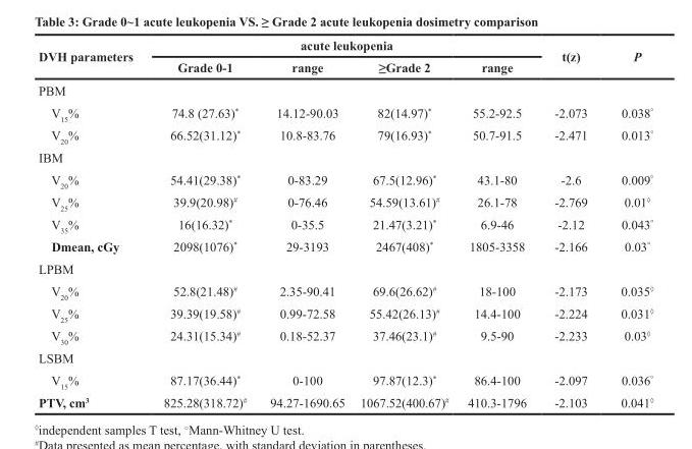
<table><thead><tr><td rowspan="2">DVH parameters</td><td colspan="4">acute leukopenia</td><td rowspan="2">t(z)</td><td rowspan="2">P</td></tr><tr><td>Grade 0-1</td><td>range</td><td>≥Grade 2</td><td>range</td></tr></thead><tbody><tr><td colspan="7">PBM</td></tr><tr><td>V<sub>15</sub>%</td><td>74.8 (27.63)*</td><td>14.12-90.03</td><td>82(14.97)*</td><td>55.2-92.5</td><td>-2.073</td><td>0.038<sup>°</sup></td></tr><tr><td>V<sub>20</sub>%</td><td>66.52(31.12)*</td><td>10.8-83.76</td><td>79(16.93)*</td><td>50.7-91.5</td><td>-2.471</td><td>0.013<sup>°</sup></td></tr><tr><td colspan="7">IBM</td></tr><tr><td>V<sub>20</sub>%</td><td>54.41(29.38)*</td><td>0-83.29</td><td>67.5(12.96)*</td><td>43.1-80</td><td>-2.6</td><td>0.009<sup>°</sup></td></tr><tr><td>V<sub>25</sub>%</td><td>39.9(20.98)<sup>#</sup></td><td>0-76.46</td><td>54.59(13.61)<sup>#</sup></td><td>26.1-78</td><td>-2.769</td><td>0.01<sup>◊</sup></td></tr><tr><td>V<sub>35</sub>%</td><td>16(16.32)*</td><td>0-35.5</td><td>21.47(3.21)*</td><td>6.9-46</td><td>-2.12</td><td>0.043<sup>°</sup></td></tr><tr><td>Dmean, cGy</td><td>2098(1076)*</td><td>29-3193</td><td>2467(408)*</td><td>1805-3358</td><td>-2.166</td><td>0.03<sup>°</sup></td></tr><tr><td colspan="7">LPBM</td></tr><tr><td>V<sub>20</sub>%</td><td>52.8(21.48)<sup>#</sup></td><td>2.35-90.41</td><td>69.6(26.62)<sup>#</sup></td><td>18-100</td><td>-2.173</td><td>0.035<sup>◊</sup></td></tr><tr><td>V<sub>25</sub>%</td><td>39.39(19.58)<sup>#</sup></td><td>0.99-72.58</td><td>55.42(26.13)<sup>#</sup></td><td>14.4-100</td><td>-2.224</td><td>0.031<sup>◊</sup></td></tr><tr><td>V<sub>30</sub>%</td><td>24.31(15.34)<sup>#</sup></td><td>0.18-52.37</td><td>37.46(23.1)<sup>#</sup></td><td>9.5-90</td><td>-2.233</td><td>0.03<sup>◊</sup></td></tr><tr><td colspan="7">LSBM</td></tr><tr><td>V<sub>15</sub>%</td><td>87.17(36.44)*</td><td>0-100</td><td>97.87(12.3)*</td><td>86.4-100</td><td>-2.097</td><td>0.036<sup>°</sup></td></tr><tr><td>PTV, cm3</td><td>825.28(318.72)<sup>#</sup></td><td>94.27-1690.65</td><td>1067.52(400.67)<sup>#</sup></td><td>410.3-1796</td><td>-2.103</td><td>0.041<sup>◊</sup></td></tr></tbody></table>